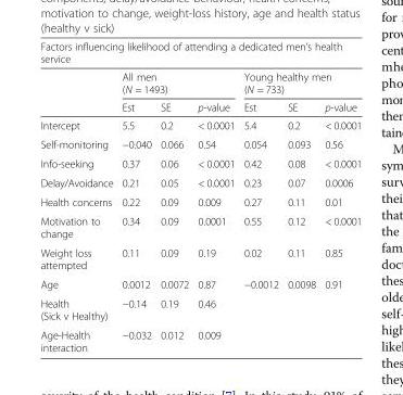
<table><thead><tr><td colspan="7">Factors influencing likelihood of attending a dedicated men’s health service</td></tr><tr><td rowspan="2"></td><td colspan="3">All men (N = 1493)</td><td colspan="3">Young healthy men (N = 733)</td></tr><tr><td>Est</td><td>SE</td><td>p-value</td><td>Est</td><td>SE</td><td>p-value</td></tr></thead><tbody><tr><td>Intercept</td><td>5.5</td><td>0.2</td><td>&lt; 0.0001</td><td>5.4</td><td>0.2</td><td>&lt; 0.0001</td></tr><tr><td>Self-monitoring</td><td>−0.040</td><td>0.066</td><td>0.54</td><td>0.054</td><td>0.093</td><td>0.56</td></tr><tr><td>Info-seeking</td><td>0.37</td><td>0.06</td><td>&lt; 0.0001</td><td>0.42</td><td>0.08</td><td>&lt; 0.0001</td></tr><tr><td>Delay/Avoidance</td><td>0.21</td><td>0.05</td><td>&lt; 0.0001</td><td>0.23</td><td>0.07</td><td>0.0006</td></tr><tr><td>Health concerns</td><td>0.22</td><td>0.09</td><td>0.009</td><td>0.27</td><td>0.11</td><td>0.01</td></tr><tr><td>Motivation to change</td><td>0.34</td><td>0.09</td><td>0.0001</td><td>0.55</td><td>0.12</td><td>&lt; 0.0001</td></tr><tr><td>Weight loss attempted</td><td>0.11</td><td>0.09</td><td>0.19</td><td>0.02</td><td>0.11</td><td>0.85</td></tr><tr><td>Age</td><td>0.0012</td><td>0.0072</td><td>0.87</td><td>−0.0012</td><td>0.0098</td><td>0.91</td></tr><tr><td>Health (Sick v Healthy)</td><td>−0.14</td><td>0.19</td><td>0.46</td><td></td><td></td><td></td></tr><tr><td>Age-Health interaction</td><td>−0.032</td><td>0.012</td><td>0.009</td><td></td><td></td><td></td></tr></tbody></table>